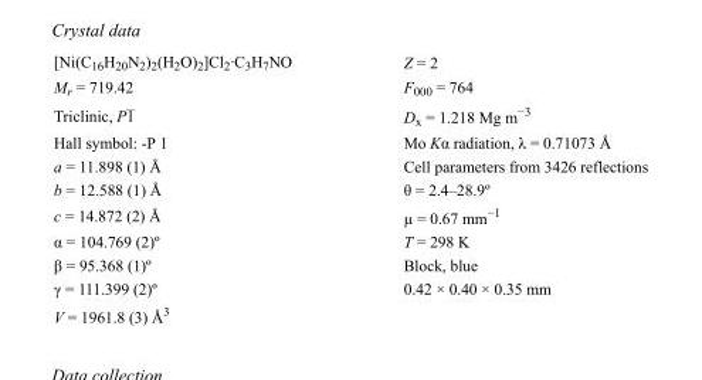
<table><tbody><tr><td>[Ni(C<sub>16</sub>H<sub>20</sub>N<sub>2</sub>)<sub>2</sub>(H<sub>2</sub>O)<sub>2</sub>]Cl<sub>2</sub>·C<sub>3</sub>H<sub>7</sub>NO</td><td>Z = 2</td></tr><tr><td>M<sub>r</sub> = 719.42</td><td>F000 = 764</td></tr><tr><td>Triclinic, P1</td><td>D<sub>x</sub> = 1.218 Mg m<sup>−3</sup></td></tr><tr><td>Hall symbol: -P 1</td><td>Mo Kα radiation, λ = 0.71073 Å</td></tr><tr><td>a = 11.898 (1) Å</td><td>Cell parameters from 3426 reflections</td></tr><tr><td>b = 12.588 (1) Å</td><td>θ = 2.4–28.9º</td></tr><tr><td>c = 14.872 (2) Å</td><td>µ = 0.67 mm<sup>−1</sup></td></tr><tr><td>α = 104.769 (2)º</td><td>T = 298 K</td></tr><tr><td>β = 95.368 (1)º</td><td>Block, blue</td></tr><tr><td>γ = 111.399 (2)º</td><td>0.42 × 0.40 × 0.35 mm</td></tr><tr><td>V = 1961.8 (3) Å<sup>3</sup></td><td></td></tr></tbody></table>